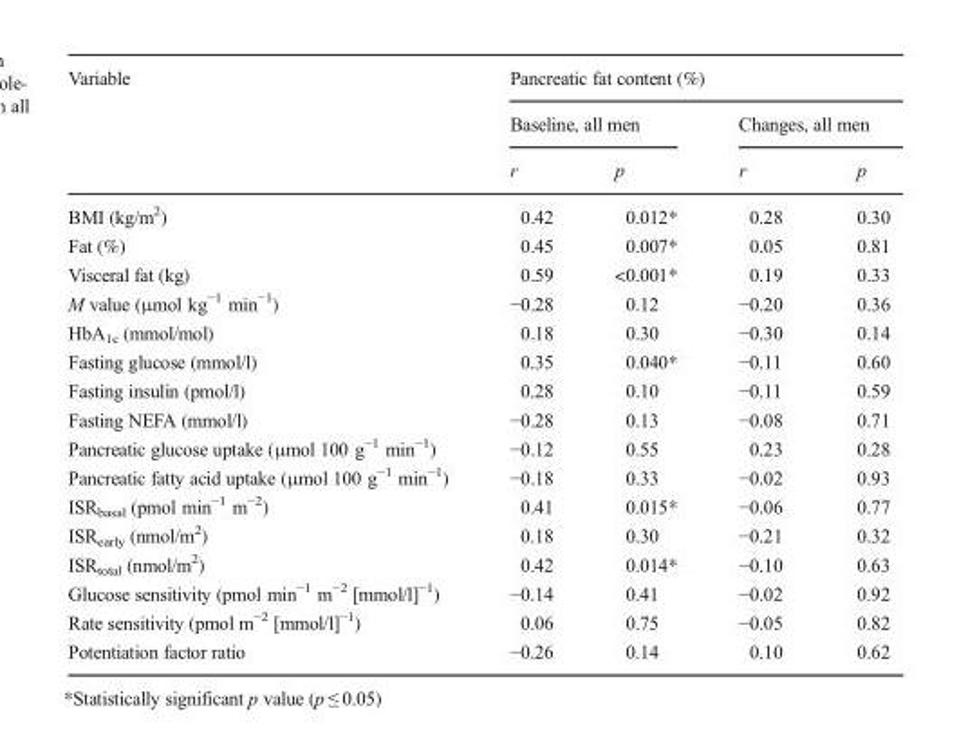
<table><thead><tr><td rowspan="3">Variable</td><td colspan="4">Pancreatic fat content (%)</td></tr><tr><td colspan="2">Baseline, all men</td><td colspan="2">Changes, all men</td></tr><tr><td>r</td><td>p</td><td>r</td><td>p</td></tr></thead><tbody><tr><td>BMI (kg/m<sup>2</sup>)</td><td>0.42</td><td>0.012*</td><td>0.28</td><td>0.30</td></tr><tr><td>Fat (%)</td><td>0.45</td><td>0.007*</td><td>0.05</td><td>0.81</td></tr><tr><td>Visceral fat (kg)</td><td>0.59</td><td>&lt;0.001*</td><td>0.19</td><td>0.33</td></tr><tr><td>M value (μmol kg<sup>−1</sup> min<sup>−1</sup>)</td><td>−0.28</td><td>0.12</td><td>−0.20</td><td>0.36</td></tr><tr><td>HbA<sub>1c</sub> (mmol/mol)</td><td>0.18</td><td>0.30</td><td>−0.30</td><td>0.14</td></tr><tr><td>Fasting glucose (mmol/l)</td><td>0.35</td><td>0.040*</td><td>−0.11</td><td>0.60</td></tr><tr><td>Fasting insulin (pmol/l)</td><td>0.28</td><td>0.10</td><td>−0.11</td><td>0.59</td></tr><tr><td>Fasting NEFA (mmol/l)</td><td>−0.28</td><td>0.13</td><td>−0.08</td><td>0.71</td></tr><tr><td>Pancreatic glucose uptake (μmol 100 g<sup>−1</sup> min<sup>−1</sup>)</td><td>−0.12</td><td>0.55</td><td>0.23</td><td>0.28</td></tr><tr><td>Pancreatic fatty acid uptake (μmol 100 g<sup>−1</sup> min<sup>−1</sup>)</td><td>−0.18</td><td>0.33</td><td>−0.02</td><td>0.93</td></tr><tr><td>ISR<sub>basal</sub> (pmol min<sup>−1</sup> m<sup>−2</sup>)</td><td>0.41</td><td>0.015*</td><td>−0.06</td><td>0.77</td></tr><tr><td>ISR<sub>early</sub> (nmol/m<sup>2</sup>)</td><td>0.18</td><td>0.30</td><td>−0.21</td><td>0.32</td></tr><tr><td>ISR<sub>total</sub> (nmol/m<sup>2</sup>)</td><td>0.42</td><td>0.014*</td><td>−0.10</td><td>0.63</td></tr><tr><td>Glucose sensitivity (pmol min<sup>−1</sup> m<sup>−2</sup> [mmol/l]<sup>−1</sup>)</td><td>−0.14</td><td>0.41</td><td>−0.02</td><td>0.92</td></tr><tr><td>Rate sensitivity (pmol m<sup>−2</sup> [mmol/l]<sup>−1</sup>)</td><td>0.06</td><td>0.75</td><td>−0.05</td><td>0.82</td></tr><tr><td>Potentiation factor ratio</td><td>−0.26</td><td>0.14</td><td>0.10</td><td>0.62</td></tr></tbody></table>